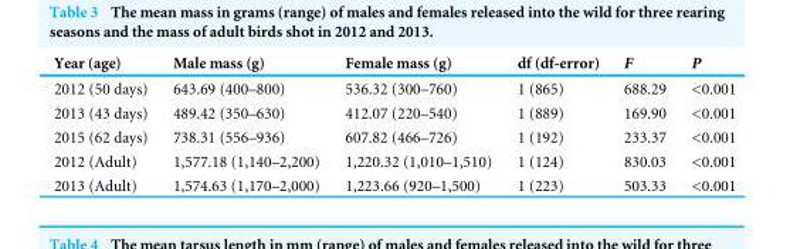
<table><thead><tr><td>Year (age)</td><td>Male mass (g)</td><td>Female mass (g)</td><td>df (df-error)</td><td>F</td><td>P</td></tr></thead><tbody><tr><td>2012 (50 days)</td><td>643.69 (400–800)</td><td>536.32 (300–760)</td><td>1 (865)</td><td>688.29</td><td>&lt;0.001</td></tr><tr><td>2013 (43 days)</td><td>489.42 (350–630)</td><td>412.07 (220–540)</td><td>1 (889)</td><td>169.90</td><td>&lt;0.001</td></tr><tr><td>2015 (62 days)</td><td>738.31 (556–936)</td><td>607.82 (466–726)</td><td>1 (192)</td><td>233.37</td><td>&lt;0.001</td></tr><tr><td>2012 (Adult)</td><td>1,577.18 (1,140–2,200)</td><td>1,220.32 (1,010–1,510)</td><td>1 (124)</td><td>830.03</td><td>&lt;0.001</td></tr><tr><td>2013 (Adult)</td><td>1,574.63 (1,170–2,000)</td><td>1,223.66 (920–1,500)</td><td>1 (223)</td><td>503.33</td><td>&lt;0.001</td></tr></tbody></table>